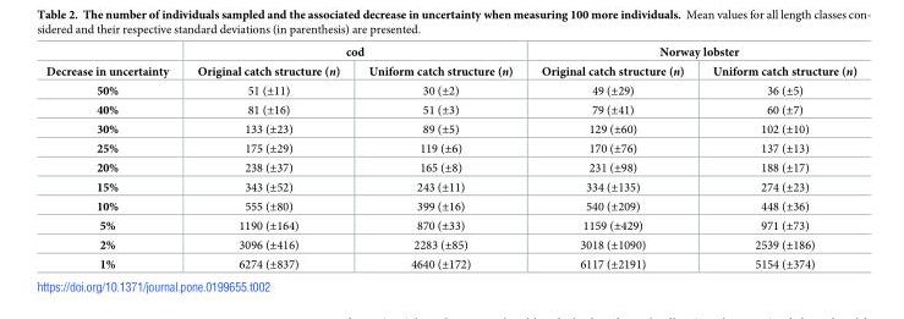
<table><thead><tr><td rowspan="2">Decrease in uncertainty</td><td colspan="2">cod</td><td colspan="2">Norway lobster</td></tr><tr><td>Original catch structure (n)</td><td>Uniform catch structure (n)</td><td>Original catch structure (n)</td><td>Uniform catch structure (n)</td></tr></thead><tbody><tr><td>50%</td><td>51 (±11)</td><td>30 (±2)</td><td>49 (±29)</td><td>36 (±5)</td></tr><tr><td>40%</td><td>81 (±16)</td><td>51 (±3)</td><td>79 (±41)</td><td>60 (±7)</td></tr><tr><td>30%</td><td>133 (±23)</td><td>89 (±5)</td><td>129 (±60)</td><td>102 (±10)</td></tr><tr><td>25%</td><td>175 (±29)</td><td>119 (±6)</td><td>170 (±76)</td><td>137 (±13)</td></tr><tr><td>20%</td><td>238 (±37)</td><td>165 (±8)</td><td>231 (±98)</td><td>188 (±17)</td></tr><tr><td>15%</td><td>343 (±52)</td><td>243 (±11)</td><td>334 (±135)</td><td>274 (±23)</td></tr><tr><td>10%</td><td>555 (±80)</td><td>399 (±16)</td><td>540 (±209)</td><td>448 (±36)</td></tr><tr><td>5%</td><td>1190 (±164)</td><td>870 (±33)</td><td>1159 (±429)</td><td>971 (±73)</td></tr><tr><td>2%</td><td>3096 (±416)</td><td>2283 (±85)</td><td>3018 (±1090)</td><td>2539 (±186)</td></tr><tr><td>1%</td><td>6274 (±837)</td><td>4640 (±172)</td><td>6117 (±2191)</td><td>5154 (±374)</td></tr></tbody></table>